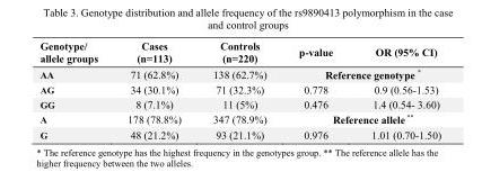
<table><thead><tr><td>Genotype/ allele groups</td><td>Cases (n=113)</td><td>Controls (n=220)</td><td>p-value</td><td>OR (95% CI)</td></tr></thead><tbody><tr><td>AA</td><td>71 (62.8%)</td><td>138 (62.7%)</td><td colspan="2">Reference genotype *</td></tr><tr><td>AG</td><td>34 (30.1%)</td><td>71 (32.3%)</td><td>0.778</td><td>0.9 (0.56-1.53)</td></tr><tr><td>GG</td><td>8 (7.1%)</td><td>11 (5%)</td><td>0.476</td><td>1.4 (0.54- 3.60)</td></tr><tr><td>A</td><td>178 (78.8%)</td><td>347 (78.9%)</td><td colspan="2">Reference allele **</td></tr><tr><td>G</td><td>48 (21.2%)</td><td>93 (21.1%)</td><td>0.976</td><td>1.01 (0.70-1.50)</td></tr></tbody></table>